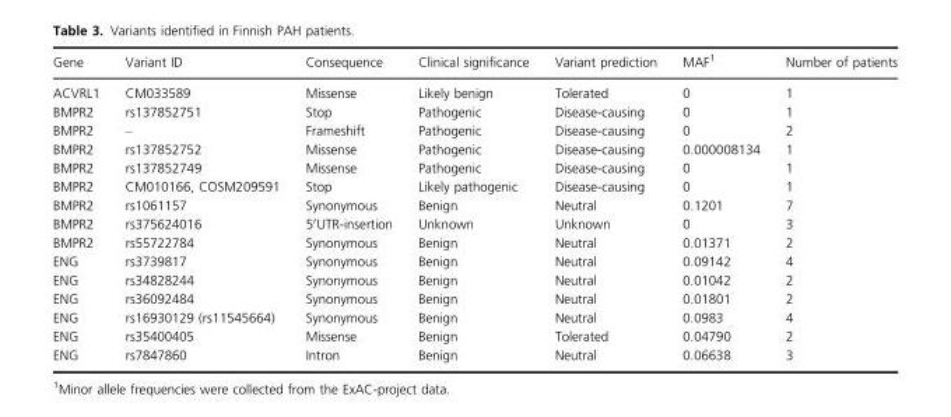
<table><thead><tr><td>Gene</td><td>Variant ID</td><td>Consequence</td><td>Clinical significance</td><td>Variant prediction</td><td>MAF<sup>1</sup></td><td>Number of patients</td></tr></thead><tbody><tr><td>ACVRL1</td><td>CM033589</td><td>Missense</td><td>Likely benign</td><td>Tolerated</td><td>0</td><td>1</td></tr><tr><td>BMPR2</td><td>rs137852751</td><td>Stop</td><td>Pathogenic</td><td>Disease-causing</td><td>0</td><td>1</td></tr><tr><td>BMPR2</td><td>–</td><td>Frameshift</td><td>Pathogenic</td><td>Disease-causing</td><td>0</td><td>2</td></tr><tr><td>BMPR2</td><td>rs137852752</td><td>Missense</td><td>Pathogenic</td><td>Disease-causing</td><td>0.000008134</td><td>1</td></tr><tr><td>BMPR2</td><td>rs137852749</td><td>Missense</td><td>Pathogenic</td><td>Disease-causing</td><td>0</td><td>1</td></tr><tr><td>BMPR2</td><td>CM010166, COSM209591</td><td>Stop</td><td>Likely pathogenic</td><td>Disease-causing</td><td>0</td><td>1</td></tr><tr><td>BMPR2</td><td>rs1061157</td><td>Synonymous</td><td>Benign</td><td>Neutral</td><td>0.1201</td><td>7</td></tr><tr><td>BMPR2</td><td>rs375624016</td><td>5′UTR-insertion</td><td>Unknown</td><td>Unknown</td><td>0</td><td>3</td></tr><tr><td>BMPR2</td><td>rs55722784</td><td>Synonymous</td><td>Benign</td><td>Neutral</td><td>0.01371</td><td>2</td></tr><tr><td>ENG</td><td>rs3739817</td><td>Synonymous</td><td>Benign</td><td>Neutral</td><td>0.09142</td><td>4</td></tr><tr><td>ENG</td><td>rs34828244</td><td>Synonymous</td><td>Benign</td><td>Neutral</td><td>0.01042</td><td>2</td></tr><tr><td>ENG</td><td>rs36092484</td><td>Synonymous</td><td>Benign</td><td>Neutral</td><td>0.01801</td><td>2</td></tr><tr><td>ENG</td><td>rs16930129 (rs11545664)</td><td>Synonymous</td><td>Benign</td><td>Neutral</td><td>0.0983</td><td>4</td></tr><tr><td>ENG</td><td>rs35400405</td><td>Missense</td><td>Benign</td><td>Tolerated</td><td>0.04790</td><td>2</td></tr><tr><td>ENG</td><td>rs7847860</td><td>Intron</td><td>Benign</td><td>Neutral</td><td>0.06638</td><td>3</td></tr></tbody></table>